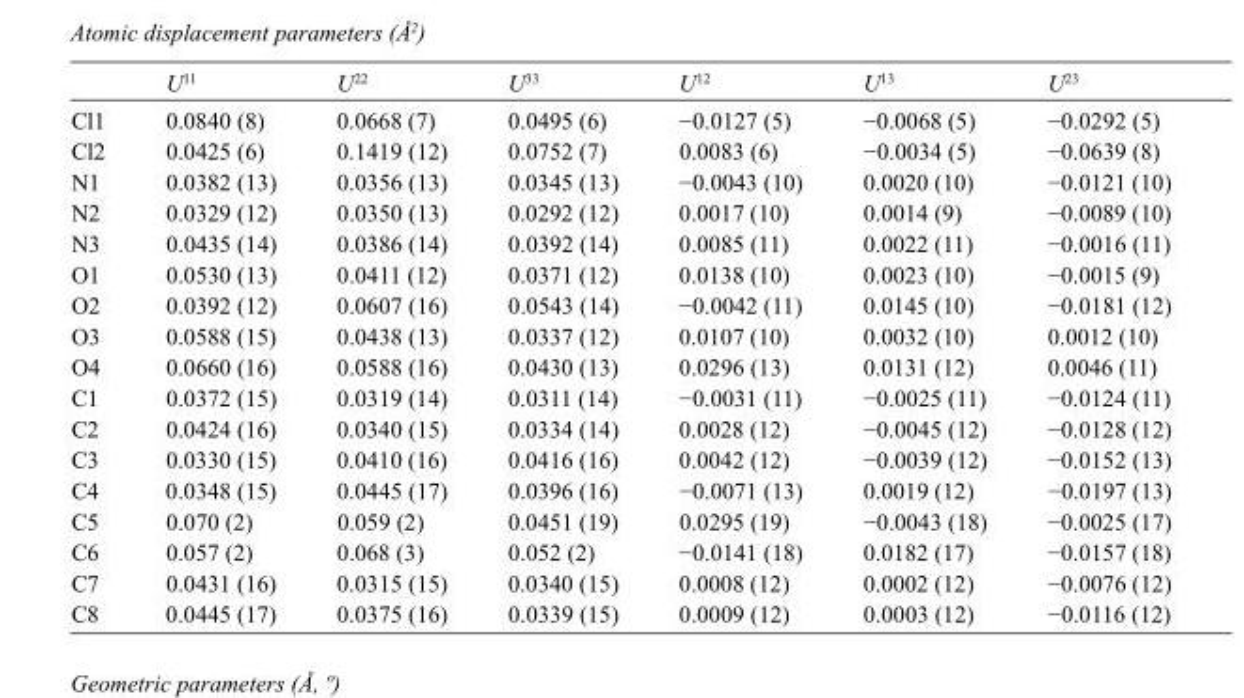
<table><thead><tr><td></td><td>U<sup>11</sup></td><td>U<sup>22</sup></td><td>U<sup>33</sup></td><td>U<sup>12</sup></td><td>U<sup>13</sup></td><td>U<sup>23</sup></td></tr></thead><tbody><tr><td>Cl1</td><td>0.0840 (8)</td><td>0.0668 (7)</td><td>0.0495 (6)</td><td>−0.0127 (5)</td><td>−0.0068 (5)</td><td>−0.0292 (5)</td></tr><tr><td>Cl2</td><td>0.0425 (6)</td><td>0.1419 (12)</td><td>0.0752 (7)</td><td>0.0083 (6)</td><td>−0.0034 (5)</td><td>−0.0639 (8)</td></tr><tr><td>N1</td><td>0.0382 (13)</td><td>0.0356 (13)</td><td>0.0345 (13)</td><td>−0.0043 (10)</td><td>0.0020 (10)</td><td>−0.0121 (10)</td></tr><tr><td>N2</td><td>0.0329 (12)</td><td>0.0350 (13)</td><td>0.0292 (12)</td><td>0.0017 (10)</td><td>0.0014 (9)</td><td>−0.0089 (10)</td></tr><tr><td>N3</td><td>0.0435 (14)</td><td>0.0386 (14)</td><td>0.0392 (14)</td><td>0.0085 (11)</td><td>0.0022 (11)</td><td>−0.0016 (11)</td></tr><tr><td>O1</td><td>0.0530 (13)</td><td>0.0411 (12)</td><td>0.0371 (12)</td><td>0.0138 (10)</td><td>0.0023 (10)</td><td>−0.0015 (9)</td></tr><tr><td>O2</td><td>0.0392 (12)</td><td>0.0607 (16)</td><td>0.0543 (14)</td><td>−0.0042 (11)</td><td>0.0145 (10)</td><td>−0.0181 (12)</td></tr><tr><td>O3</td><td>0.0588 (15)</td><td>0.0438 (13)</td><td>0.0337 (12)</td><td>0.0107 (10)</td><td>0.0032 (10)</td><td>0.0012 (10)</td></tr><tr><td>O4</td><td>0.0660 (16)</td><td>0.0588 (16)</td><td>0.0430 (13)</td><td>0.0296 (13)</td><td>0.0131 (12)</td><td>0.0046 (11)</td></tr><tr><td>C1</td><td>0.0372 (15)</td><td>0.0319 (14)</td><td>0.0311 (14)</td><td>−0.0031 (11)</td><td>−0.0025 (11)</td><td>−0.0124 (11)</td></tr><tr><td>C2</td><td>0.0424 (16)</td><td>0.0340 (15)</td><td>0.0334 (14)</td><td>0.0028 (12)</td><td>−0.0045 (12)</td><td>−0.0128 (12)</td></tr><tr><td>C3</td><td>0.0330 (15)</td><td>0.0410 (16)</td><td>0.0416 (16)</td><td>0.0042 (12)</td><td>−0.0039 (12)</td><td>−0.0152 (13)</td></tr><tr><td>C4</td><td>0.0348 (15)</td><td>0.0445 (17)</td><td>0.0396 (16)</td><td>−0.0071 (13)</td><td>0.0019 (12)</td><td>−0.0197 (13)</td></tr><tr><td>C5</td><td>0.070 (2)</td><td>0.059 (2)</td><td>0.0451 (19)</td><td>0.0295 (19)</td><td>−0.0043 (18)</td><td>−0.0025 (17)</td></tr><tr><td>C6</td><td>0.057 (2)</td><td>0.068 (3)</td><td>0.052 (2)</td><td>−0.0141 (18)</td><td>0.0182 (17)</td><td>−0.0157 (18)</td></tr><tr><td>C7</td><td>0.0431 (16)</td><td>0.0315 (15)</td><td>0.0340 (15)</td><td>0.0008 (12)</td><td>0.0002 (12)</td><td>−0.0076 (12)</td></tr><tr><td>C8</td><td>0.0445 (17)</td><td>0.0375 (16)</td><td>0.0339 (15)</td><td>0.0009 (12)</td><td>0.0003 (12)</td><td>−0.0116 (12)</td></tr></tbody></table>